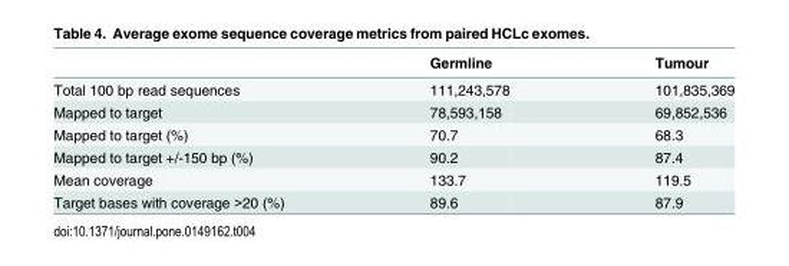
<table><thead><tr><td></td><td>Germline</td><td>Tumour</td></tr></thead><tbody><tr><td>Total 100 bp read sequences</td><td>111,243,578</td><td>101,835,369</td></tr><tr><td>Mapped to target</td><td>78,593,158</td><td>69,852,536</td></tr><tr><td>Mapped to target (%)</td><td>70.7</td><td>68.3</td></tr><tr><td>Mapped to target +/-150 bp (%)</td><td>90.2</td><td>87.4</td></tr><tr><td>Mean coverage</td><td>133.7</td><td>119.5</td></tr><tr><td>Target bases with coverage &gt;20 (%)</td><td>89.6</td><td>87.9</td></tr></tbody></table>